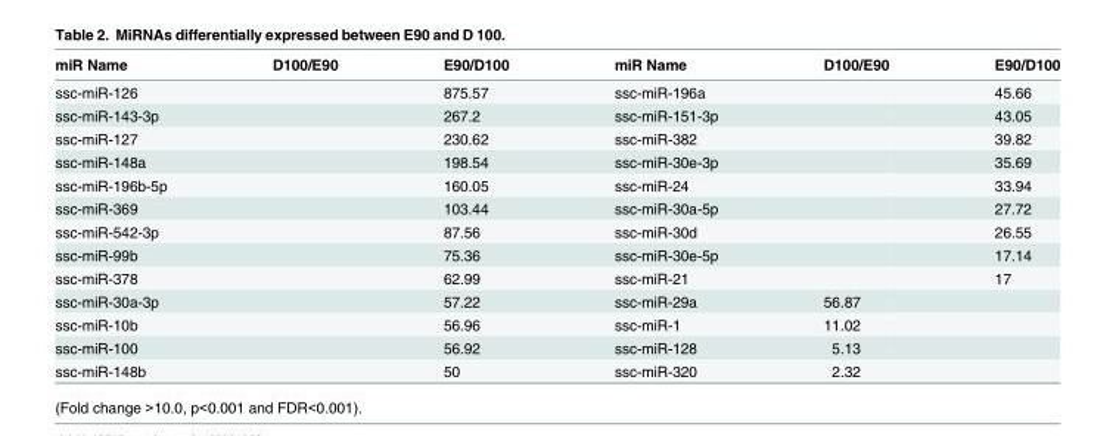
<table><thead><tr><td>miR Name</td><td>D100/E90</td><td>E90/D100</td><td>miR Name</td><td>D100/E90</td><td>E90/D100</td></tr></thead><tbody><tr><td>ssc-miR-126</td><td></td><td>875.57</td><td>ssc-miR-196a</td><td></td><td>45.66</td></tr><tr><td>ssc-miR-143-3p</td><td></td><td>267.2</td><td>ssc-miR-151-3p</td><td></td><td>43.05</td></tr><tr><td>ssc-miR-127</td><td></td><td>230.62</td><td>ssc-miR-382</td><td></td><td>39.82</td></tr><tr><td>ssc-miR-148a</td><td></td><td>198.54</td><td>ssc-miR-30e-3p</td><td></td><td>35.69</td></tr><tr><td>ssc-miR-196b-5p</td><td></td><td>160.05</td><td>ssc-miR-24</td><td></td><td>33.94</td></tr><tr><td>ssc-miR-369</td><td></td><td>103.44</td><td>ssc-miR-30a-5p</td><td></td><td>27.72</td></tr><tr><td>ssc-miR-542-3p</td><td></td><td>87.56</td><td>ssc-miR-30d</td><td></td><td>26.55</td></tr><tr><td>ssc-miR-99b</td><td></td><td>75.36</td><td>ssc-miR-30e-5p</td><td></td><td>17.14</td></tr><tr><td>ssc-miR-378</td><td></td><td>62.99</td><td>ssc-miR-21</td><td></td><td>17</td></tr><tr><td>ssc-miR-30a-3p</td><td></td><td>57.22</td><td>ssc-miR-29a</td><td>56.87</td><td></td></tr><tr><td>ssc-miR-10b</td><td></td><td>56.96</td><td>ssc-miR-1</td><td>11.02</td><td></td></tr><tr><td>ssc-miR-100</td><td></td><td>56.92</td><td>ssc-miR-128</td><td>5.13</td><td></td></tr><tr><td>ssc-miR-148b</td><td></td><td>50</td><td>ssc-miR-320</td><td>2.32</td><td></td></tr></tbody></table>